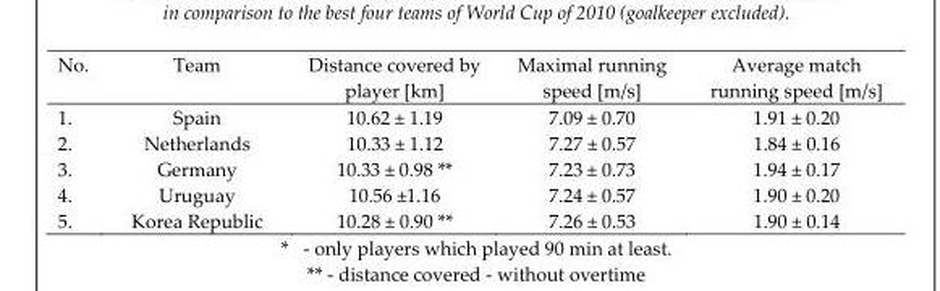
<table><thead><tr><td>No.</td><td>Team</td><td>Distance covered by player [km]</td><td>Maximal running speed [m/s]</td><td>Average match running speed [m/s]</td></tr></thead><tbody><tr><td>1.</td><td>Spain</td><td>10.62 ± 1.19</td><td>7.09 ± 0.70</td><td>1.91 ± 0.20</td></tr><tr><td>2.</td><td>Netherlands</td><td>10.33 ± 1.12</td><td>7.27 ± 0.57</td><td>1.84 ± 0.16</td></tr><tr><td>3.</td><td>Germany</td><td>10.33 ± 0.98 **</td><td>7.23 ± 0.73</td><td>1.94 ± 0.17</td></tr><tr><td>4.</td><td>Uruguay</td><td>10.56 ±1.16</td><td>7.24 ± 0.57</td><td>1.90 ± 0.20</td></tr><tr><td>5.</td><td>Korea Republic</td><td>10.28 ± 0.90 **</td><td>7.26 ± 0.53</td><td>1.90 ± 0.14</td></tr></tbody></table>